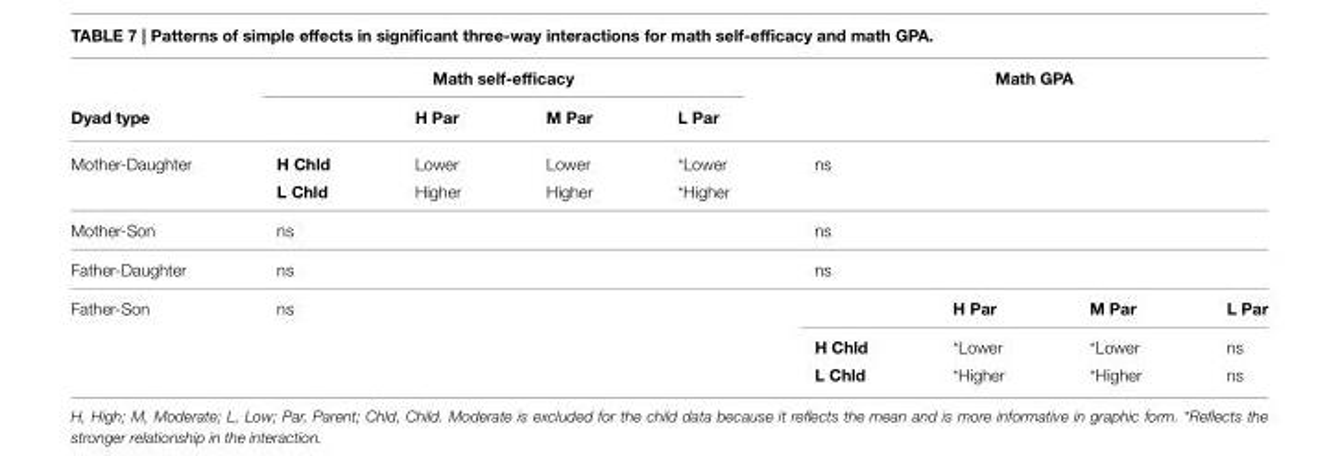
<table><thead><tr><td rowspan="2">Dyad type</td><td colspan="4">Math self-efficacy</td><td colspan="4">Math GPA</td></tr><tr><td></td><td>H Par</td><td>M Par</td><td>L Par</td><td></td><td></td><td></td><td></td></tr></thead><tbody><tr><td rowspan="2">Mother-Daughter</td><td>H Chld</td><td>Lower</td><td>Lower</td><td>*Lower</td><td colspan="4">ns</td></tr><tr><td>L Chld</td><td>Higher</td><td>Higher</td><td>*Higher</td><td colspan="4"></td></tr><tr><td>Mother-Son</td><td colspan="4">ns</td><td colspan="4">ns</td></tr><tr><td>Father-Daughter</td><td colspan="4">ns</td><td colspan="4">ns</td></tr><tr><td rowspan="3">Father-Son</td><td colspan="4">ns</td><td></td><td>H Par</td><td>M Par</td><td>L Par</td></tr><tr><td colspan="4"></td><td>H Chld</td><td>*Lower</td><td>*Lower</td><td>ns</td></tr><tr><td colspan="4"></td><td>L Chld</td><td>*Higher</td><td>*Higher</td><td>ns</td></tr></tbody></table>